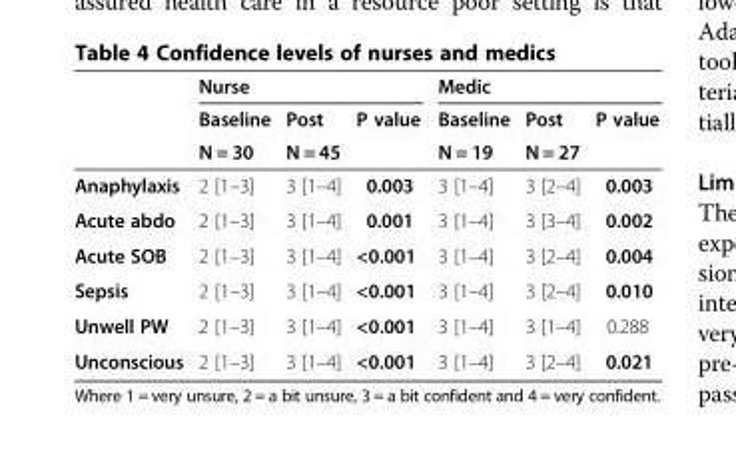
<table><thead><tr><td rowspan="3"></td><td colspan="3">Nurse</td><td colspan="3">Medic</td></tr><tr><td rowspan="2">Baseline N = 30</td><td rowspan="2">Post N = 45</td><td rowspan="2">P value</td><td rowspan="2">Baseline N = 19</td><td rowspan="2">Post N = 27</td><td rowspan="2">P value</td></tr><tr></tr></thead><tbody><tr><td>Anaphylaxis</td><td>2 [1–3]</td><td>3 [1–4]</td><td>0.003</td><td>3 [1–4]</td><td>3 [2–4]</td><td>0.003</td></tr><tr><td>Acute abdo</td><td>2 [1–3]</td><td>3 [1–4]</td><td>0.001</td><td>3 [1–4]</td><td>3 [3–4]</td><td>0.002</td></tr><tr><td>Acute SOB</td><td>2 [1–3]</td><td>3 [1–4]</td><td>&lt;0.001</td><td>3 [1–4]</td><td>3 [2–4]</td><td>0.004</td></tr><tr><td>Sepsis</td><td>2 [1–3]</td><td>3 [1–4]</td><td>&lt;0.001</td><td>3 [1–4]</td><td>3 [2–4]</td><td>0.010</td></tr><tr><td>Unwell PW</td><td>2 [1–3]</td><td>3 [1–4]</td><td>&lt;0.001</td><td>3 [1–4]</td><td>3 [1–4]</td><td>0.288</td></tr><tr><td>Unconscious</td><td>2 [1–3]</td><td>3 [1–4]</td><td>&lt;0.001</td><td>3 [1–4]</td><td>3 [2–4]</td><td>0.021</td></tr></tbody></table>